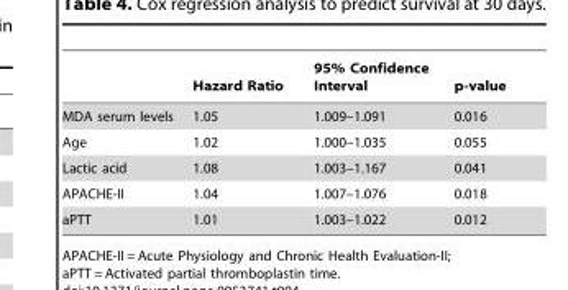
<table><thead><tr><td></td><td>Hazard Ratio</td><td>95% Confidence Interval</td><td>p-value</td></tr></thead><tbody><tr><td>MDA serum levels</td><td>1.05</td><td>1.009–1.091</td><td>0.016</td></tr><tr><td>Age</td><td>1.02</td><td>1.000–1.035</td><td>0.055</td></tr><tr><td>Lactic acid</td><td>1.08</td><td>1.003–1.167</td><td>0.041</td></tr><tr><td>APACHE-II</td><td>1.04</td><td>1.007–1.076</td><td>0.018</td></tr><tr><td>aPTT</td><td>1.01</td><td>1.003–1.022</td><td>0.012</td></tr></tbody></table>